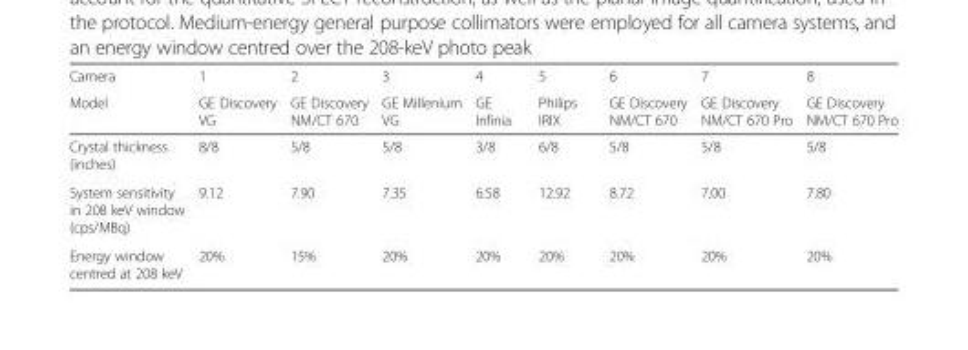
<table><thead><tr><td rowspan="2">Camera Model</td><td rowspan="2">1 GE Discovery VG</td><td rowspan="2">2 GE Discovery NM/CT 670</td><td rowspan="2">3 GE Millenium VG</td><td rowspan="2">4 GE Infinia</td><td rowspan="2">5 Philips IRIX</td><td rowspan="2">6 GE Discovery NM/CT 670</td><td rowspan="2">7 GE Discovery NM/CT 670 Pro</td><td rowspan="2">8 GE Discovery NM/CT 670 Pro</td></tr><tr></tr></thead><tbody><tr><td>Crystal thickness (inches)</td><td>8/8</td><td>5/8</td><td>5/8</td><td>3/8</td><td>6/8</td><td>5/8</td><td>5/8</td><td>5/8</td></tr><tr><td>System sensitivity in 208 keV window (cps/MBq)</td><td>9.12</td><td>7.90</td><td>7.35</td><td>6.58</td><td>12.92</td><td>8.72</td><td>7.00</td><td>7.80</td></tr><tr><td>Energy window centred at 208 keV</td><td>20%</td><td>15%</td><td>20%</td><td>20%</td><td>20%</td><td>20%</td><td>20%</td><td>20%</td></tr></tbody></table>